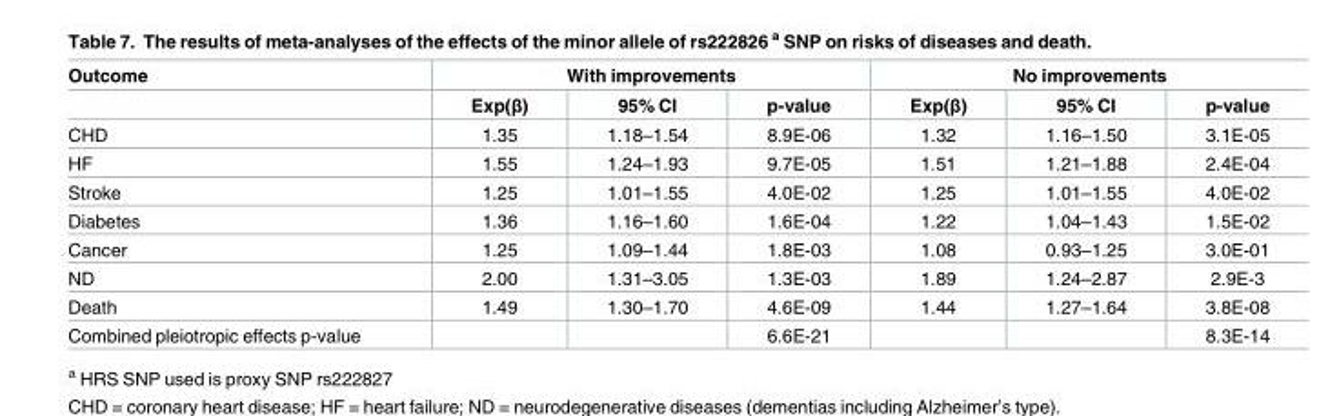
<table><thead><tr><td rowspan="2">Outcome</td><td colspan="3">With improvements</td><td colspan="3">No improvements</td></tr><tr><td>Exp(β)</td><td>95% CI</td><td>p-value</td><td>Exp(β)</td><td>95% CI</td><td>p-value</td></tr></thead><tbody><tr><td>CHD</td><td>1.35</td><td>1.18–1.54</td><td>8.9E-06</td><td>1.32</td><td>1.16–1.50</td><td>3.1E-05</td></tr><tr><td>HF</td><td>1.55</td><td>1.24–1.93</td><td>9.7E-05</td><td>1.51</td><td>1.21–1.88</td><td>2.4E-04</td></tr><tr><td>Stroke</td><td>1.25</td><td>1.01–1.55</td><td>4.0E-02</td><td>1.25</td><td>1.01–1.55</td><td>4.0E-02</td></tr><tr><td>Diabetes</td><td>1.36</td><td>1.16–1.60</td><td>1.6E-04</td><td>1.22</td><td>1.04–1.43</td><td>1.5E-02</td></tr><tr><td>Cancer</td><td>1.25</td><td>1.09–1.44</td><td>1.8E-03</td><td>1.08</td><td>0.93–1.25</td><td>3.0E-01</td></tr><tr><td>ND</td><td>2.00</td><td>1.31–3.05</td><td>1.3E-03</td><td>1.89</td><td>1.24–2.87</td><td>2.9E-3</td></tr><tr><td>Death</td><td>1.49</td><td>1.30–1.70</td><td>4.6E-09</td><td>1.44</td><td>1.27–1.64</td><td>3.8E-08</td></tr><tr><td>Combined pleiotropic effects p-value</td><td></td><td></td><td>6.6E-21</td><td></td><td></td><td>8.3E-14</td></tr></tbody></table>